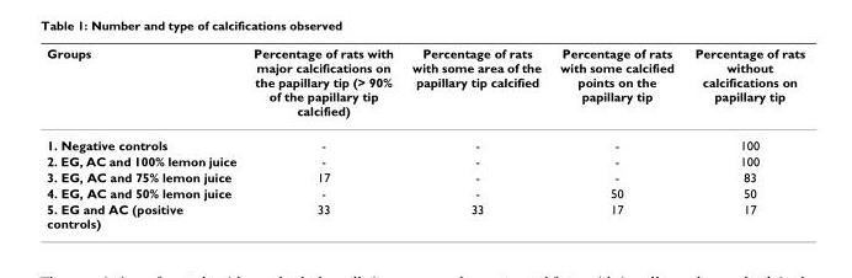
<table><thead><tr><td>Groups</td><td>Percentage of rats with major calcifications on the papillary tip (&gt; 90% of the papillary tip calcified)</td><td>Percentage of rats with some area of the papillary tip calcified</td><td>Percentage of rats with some calcified points on the papillary tip</td><td>Percentage of rats without calcifications on papillary tip</td></tr></thead><tbody><tr><td>1. Negative controls</td><td>-</td><td>-</td><td>-</td><td>100</td></tr><tr><td>2. EG, AC and 100% lemon juice</td><td>-</td><td>-</td><td>-</td><td>100</td></tr><tr><td>3. EG, AC and 75% lemon juice</td><td>17</td><td>-</td><td>-</td><td>83</td></tr><tr><td>4. EG, AC and 50% lemon juice</td><td>-</td><td>-</td><td>50</td><td>50</td></tr><tr><td>5. EG and AC (positive controls)</td><td>33</td><td>33</td><td>17</td><td>17</td></tr></tbody></table>